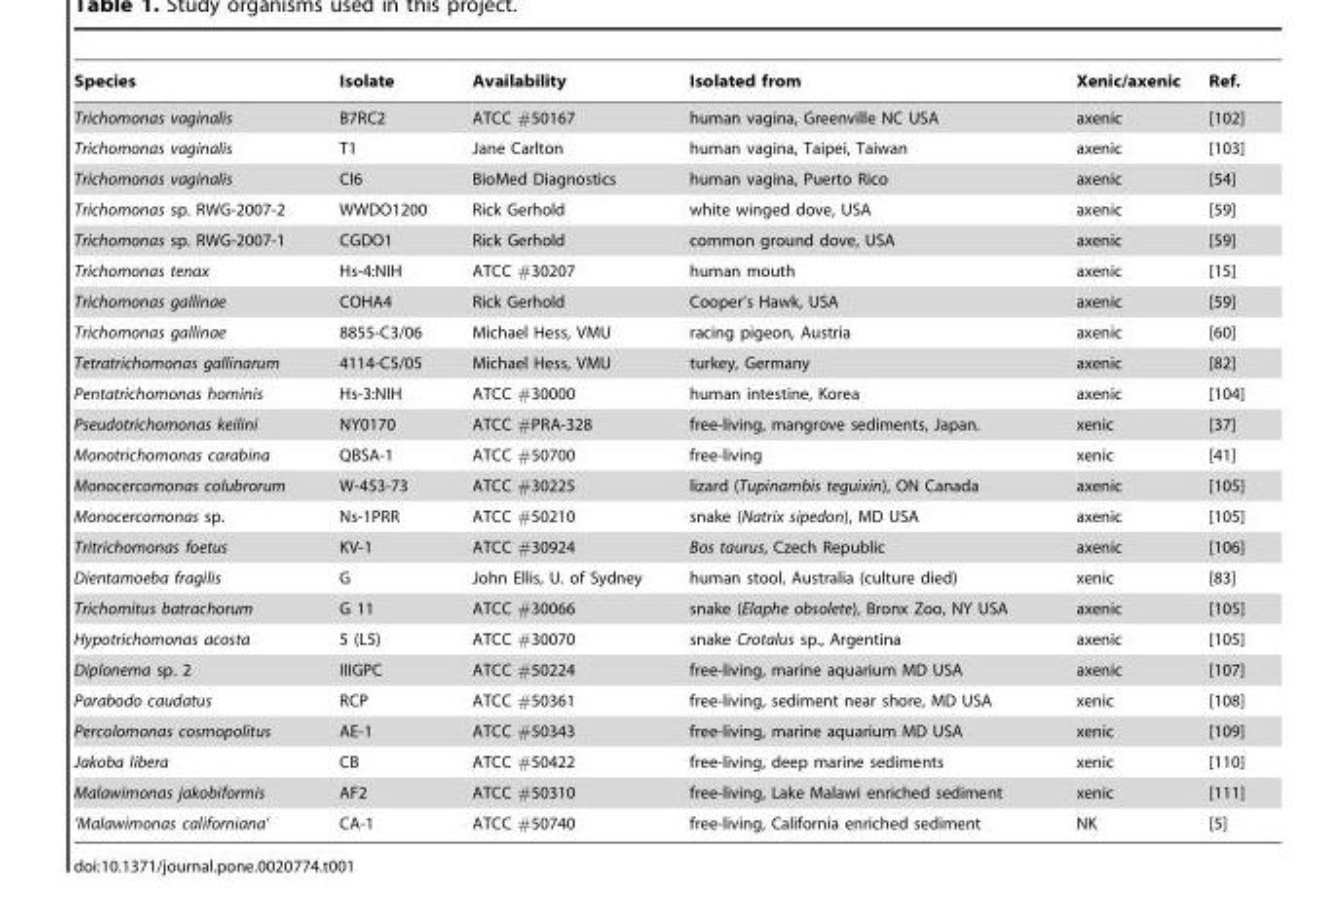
<table><thead><tr><td>Species</td><td>Isolate</td><td>Availability</td><td>Isolated from</td><td>Xenic/axenic</td><td>Ref.</td></tr></thead><tbody><tr><td>Trichomonas vaginalis</td><td>B7RC2</td><td>ATCC #50167</td><td>human vagina, Greenville NC USA</td><td>axenic</td><td>[102]</td></tr><tr><td>Trichomonas vaginalis</td><td>T1</td><td>Jane Carlton</td><td>human vagina, Taipei, Taiwan</td><td>axenic</td><td>[103]</td></tr><tr><td>Trichomonas vaginalis</td><td>CI6</td><td>BioMed Diagnostics</td><td>human vagina, Puerto Rico</td><td>axenic</td><td>[54]</td></tr><tr><td>Trichomonas sp. RWG-2007-2</td><td>WWDO1200</td><td>Rick Gerhold</td><td>white winged dove, USA</td><td>axenic</td><td>[59]</td></tr><tr><td>Trichomonas sp. RWG-2007-1</td><td>CGDO1</td><td>Rick Gerhold</td><td>common ground dove, USA</td><td>axenic</td><td>[59]</td></tr><tr><td>Trichomonas tenax</td><td>Hs-4:NIH</td><td>ATCC #30207</td><td>human mouth</td><td>axenic</td><td>[15]</td></tr><tr><td>Trichomonas gallinae</td><td>COHA4</td><td>Rick Gerhold</td><td>Cooper’s Hawk, USA</td><td>axenic</td><td>[59]</td></tr><tr><td>Trichomonas gallinae</td><td>8855-C3/06</td><td>Michael Hess, VMU</td><td>racing pigeon, Austria</td><td>axenic</td><td>[60]</td></tr><tr><td>Tetratrichomonas gallinarum</td><td>4114-C5/05</td><td>Michael Hess, VMU</td><td>turkey, Germany</td><td>axenic</td><td>[82]</td></tr><tr><td>Pentatrichomonas hominis</td><td>Hs-3:NIH</td><td>ATCC #30000</td><td>human intestine, Korea</td><td>axenic</td><td>[104]</td></tr><tr><td>Pseudotrichomonas keilini</td><td>NY0170</td><td>ATCC #PRA-328</td><td>free-living, mangrove sediments, Japan.</td><td>xenic</td><td>[37]</td></tr><tr><td>Monotrichomonas carabina</td><td>QBSA-1</td><td>ATCC #50700</td><td>free-living</td><td>xenic</td><td>[41]</td></tr><tr><td>Monocercomonas colubrorum</td><td>W-453-73</td><td>ATCC #30225</td><td>lizard (Tupinambis teguixin), ON Canada</td><td>axenic</td><td>[105]</td></tr><tr><td>Monocercomonas sp.</td><td>Ns-1PRR</td><td>ATCC #50210</td><td>snake (Natrix sipedon), MD USA</td><td>axenic</td><td>[105]</td></tr><tr><td>Tritrichomonas foetus</td><td>KV-1</td><td>ATCC #30924</td><td>Bos taurus, Czech Republic</td><td>axenic</td><td>[106]</td></tr><tr><td>Dientamoeba fragilis</td><td>G</td><td>John Ellis, U. of Sydney</td><td>human stool, Australia (culture died)</td><td>xenic</td><td>[83]</td></tr><tr><td>Trichomitus batrachorum</td><td>G 11</td><td>ATCC #30066</td><td>snake (Elaphe obsolete), Bronx Zoo, NY USA</td><td>axenic</td><td>[105]</td></tr><tr><td>Hypotrichomonas acosta</td><td>5 (L5)</td><td>ATCC #30070</td><td>snake Crotalus sp., Argentina</td><td>axenic</td><td>[105]</td></tr><tr><td>Diplonema sp. 2</td><td>IIIGPC</td><td>ATCC #50224</td><td>free-living, marine aquarium MD USA</td><td>axenic</td><td>[107]</td></tr><tr><td>Parabodo caudatus</td><td>RCP</td><td>ATCC #50361</td><td>free-living, sediment near shore, MD USA</td><td>xenic</td><td>[108]</td></tr><tr><td>Percolomonas cosmopolitus</td><td>AE-1</td><td>ATCC #50343</td><td>free-living, marine aquarium MD USA</td><td>xenic</td><td>[109]</td></tr><tr><td>Jakoba libera</td><td>CB</td><td>ATCC #50422</td><td>free-living, deep marine sediments</td><td>xenic</td><td>[110]</td></tr><tr><td>Malawimonas jakobiformis</td><td>AF2</td><td>ATCC #50310</td><td>free-living, Lake Malawi enriched sediment</td><td>xenic</td><td>[111]</td></tr><tr><td>‘Malawimonas californiana’</td><td>CA-1</td><td>ATCC #50740</td><td>free-living, California enriched sediment</td><td>NK</td><td>[5]</td></tr></tbody></table>